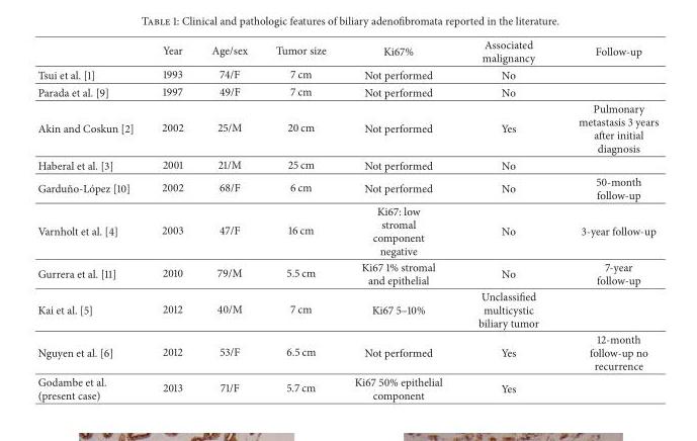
<table><thead><tr><td></td><td>Year</td><td>Age/sex</td><td>Tumor size</td><td>Ki67%</td><td>Associated malignancy</td><td>Follow-up</td></tr></thead><tbody><tr><td>Tsui et al. [1]</td><td>1993</td><td>74/F</td><td>7 cm</td><td>Not performed</td><td>No</td><td></td></tr><tr><td>Parada et al. [9]</td><td>1997</td><td>49/F</td><td>7 cm</td><td>Not performed</td><td>No</td><td></td></tr><tr><td>Akin and Coskun [2]</td><td>2002</td><td>25/M</td><td>20 cm</td><td>Not performed</td><td>Yes</td><td>Pulmonary metastasis 3 years after initial diagnosis</td></tr><tr><td>Haberal et al. [3]</td><td>2001</td><td>21/M</td><td>25 cm</td><td>Not performed</td><td>No</td><td></td></tr><tr><td>Gardu˜no-L´opez [10]</td><td>2002</td><td>68/F</td><td>6 cm</td><td>Not performed</td><td>No</td><td>50-month follow-up</td></tr><tr><td>Varnholt et al. [4]</td><td>2003</td><td>47/F</td><td>16 cm</td><td>Ki67: low stromal component negative</td><td>No</td><td>3-year follow-up</td></tr><tr><td>Gurrera et al. [11]</td><td>2010</td><td>79/M</td><td>5.5 cm</td><td>Ki67 1% stromal and epithelial</td><td>No</td><td>7-year follow-up</td></tr><tr><td>Kai et al. [5]</td><td>2012</td><td>40/M</td><td>7 cm</td><td>Ki67 5–10%</td><td>Unclassified multicystic biliary tumor</td><td></td></tr><tr><td>Nguyen et al. [6]</td><td>2012</td><td>53/F</td><td>6.5 cm</td><td>Not performed</td><td>Yes</td><td>12-month follow-up no recurrence</td></tr><tr><td>Godambe et al. (present case)</td><td>2013</td><td>71/F</td><td>5.7 cm</td><td>Ki67 50% epithelial component</td><td>Yes</td><td></td></tr></tbody></table>